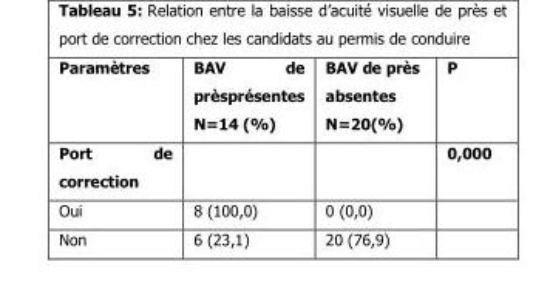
<table><thead><tr><td>Paramètres</td><td>BAV de prèsprésentes N=14 (%)</td><td>BAV de près absentes N=20(%)</td><td>P</td></tr></thead><tbody><tr><td>Port de correction</td><td></td><td></td><td>0,000</td></tr><tr><td>Oui</td><td>8 (100,0)</td><td>0 (0,0)</td><td></td></tr><tr><td>Non</td><td>6 (23,1)</td><td>20 (76,9)</td><td></td></tr></tbody></table>